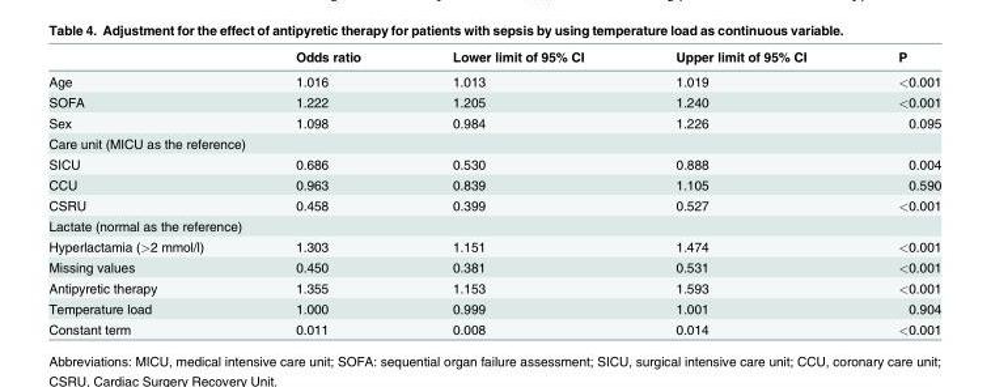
<table><thead><tr><td></td><td>Odds ratio</td><td>Lower limit of 95% CI</td><td>Upper limit of 95% CI</td><td>P</td></tr></thead><tbody><tr><td>Age</td><td>1.016</td><td>1.013</td><td>1.019</td><td>&lt;0.001</td></tr><tr><td>SOFA</td><td>1.222</td><td>1.205</td><td>1.240</td><td>&lt;0.001</td></tr><tr><td>Sex</td><td>1.098</td><td>0.984</td><td>1.226</td><td>0.095</td></tr><tr><td colspan="5">Care unit (MICU as the reference)</td></tr><tr><td>SICU</td><td>0.686</td><td>0.530</td><td>0.888</td><td>0.004</td></tr><tr><td>CCU</td><td>0.963</td><td>0.839</td><td>1.105</td><td>0.590</td></tr><tr><td>CSRU</td><td>0.458</td><td>0.399</td><td>0.527</td><td>&lt;0.001</td></tr><tr><td colspan="5">Lactate (normal as the reference)</td></tr><tr><td>Hyperlactamia (&gt;2 mmol/l)</td><td>1.303</td><td>1.151</td><td>1.474</td><td>&lt;0.001</td></tr><tr><td>Missing values</td><td>0.450</td><td>0.381</td><td>0.531</td><td>&lt;0.001</td></tr><tr><td>Antipyretic therapy</td><td>1.355</td><td>1.153</td><td>1.593</td><td>&lt;0.001</td></tr><tr><td>Temperature load</td><td>1.000</td><td>0.999</td><td>1.001</td><td>0.904</td></tr><tr><td>Constant term</td><td>0.011</td><td>0.008</td><td>0.014</td><td>&lt;0.001</td></tr></tbody></table>